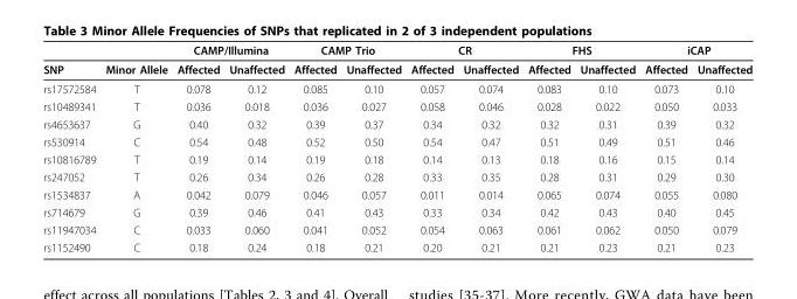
<table><thead><tr><td rowspan="2">SNP</td><td rowspan="2">Minor Allele</td><td colspan="2">CAMP/Illumina</td><td colspan="2">CAMP Trio</td><td colspan="2">CR</td><td colspan="2">FHS</td><td colspan="2">iCAP</td></tr><tr><td>Affected</td><td>Unaffected</td><td>Affected</td><td>Unaffected</td><td>Affected</td><td>Unaffected</td><td>Affected</td><td>Unaffected</td><td>Affected</td><td>Unaffected</td></tr></thead><tbody><tr><td>rs17572584</td><td>T</td><td>0.078</td><td>0.12</td><td>0.085</td><td>0.10</td><td>0.057</td><td>0.074</td><td>0.083</td><td>0.10</td><td>0.073</td><td>0.10</td></tr><tr><td>rs10489341</td><td>T</td><td>0.036</td><td>0.018</td><td>0.036</td><td>0.027</td><td>0.058</td><td>0.046</td><td>0.028</td><td>0.022</td><td>0.050</td><td>0.033</td></tr><tr><td>rs4653637</td><td>G</td><td>0.40</td><td>0.32</td><td>0.39</td><td>0.37</td><td>0.34</td><td>0.32</td><td>0.32</td><td>0.31</td><td>0.39</td><td>0.32</td></tr><tr><td>rs530914</td><td>C</td><td>0.54</td><td>0.48</td><td>0.52</td><td>0.50</td><td>0.54</td><td>0.47</td><td>0.51</td><td>0.49</td><td>0.51</td><td>0.46</td></tr><tr><td>rs10816789</td><td>T</td><td>0.19</td><td>0.14</td><td>0.19</td><td>0.18</td><td>0.14</td><td>0.13</td><td>0.18</td><td>0.16</td><td>0.15</td><td>0.14</td></tr><tr><td>rs247052</td><td>T</td><td>0.26</td><td>0.34</td><td>0.26</td><td>0.28</td><td>0.33</td><td>0.35</td><td>0.28</td><td>0.31</td><td>0.29</td><td>0.30</td></tr><tr><td>rs1534837</td><td>A</td><td>0.042</td><td>0.079</td><td>0.046</td><td>0.057</td><td>0.011</td><td>0.014</td><td>0.065</td><td>0.074</td><td>0.055</td><td>0.080</td></tr><tr><td>rs714679</td><td>G</td><td>0.39</td><td>0.46</td><td>0.41</td><td>0.43</td><td>0.33</td><td>0.34</td><td>0.42</td><td>0.43</td><td>0.40</td><td>0.45</td></tr><tr><td>rs11947034</td><td>C</td><td>0.033</td><td>0.060</td><td>0.041</td><td>0.052</td><td>0.054</td><td>0.063</td><td>0.061</td><td>0.062</td><td>0.050</td><td>0.079</td></tr><tr><td>rs1152490</td><td>C</td><td>0.18</td><td>0.24</td><td>0.18</td><td>0.21</td><td>0.20</td><td>0.21</td><td>0.21</td><td>0.23</td><td>0.21</td><td>0.23</td></tr></tbody></table>